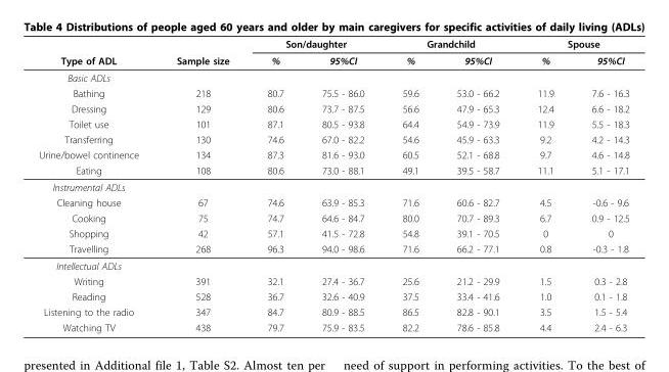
<table><thead><tr><td rowspan="2">Type of ADL</td><td rowspan="2">Sample size</td><td colspan="2">Son/daughter</td><td colspan="2">Grandchild</td><td colspan="2">Spouse</td></tr><tr><td>%</td><td>95%CI</td><td>%</td><td>95%CI</td><td>%</td><td>95%CI</td></tr></thead><tbody><tr><td colspan="8">Basic ADLs</td></tr><tr><td>Bathing</td><td>218</td><td>80.7</td><td>75.5 - 86.0</td><td>59.6</td><td>53.0 - 66.2</td><td>11.9</td><td>7.6 - 16.3</td></tr><tr><td>Dressing</td><td>129</td><td>80.6</td><td>73.7 - 87.5</td><td>56.6</td><td>47.9 - 65.3</td><td>12.4</td><td>6.6 - 18.2</td></tr><tr><td>Toilet use</td><td>101</td><td>87.1</td><td>80.5 - 93.8</td><td>64.4</td><td>54.9 - 73.9</td><td>11.9</td><td>5.5 - 18.3</td></tr><tr><td>Transferring</td><td>130</td><td>74.6</td><td>67.0 - 82.2</td><td>54.6</td><td>45.9 - 63.3</td><td>9.2</td><td>4.2 - 14.3</td></tr><tr><td>Urine/bowel continence</td><td>134</td><td>87.3</td><td>81.6 - 93.0</td><td>60.5</td><td>52.1 - 68.8</td><td>9.7</td><td>4.6 - 14.8</td></tr><tr><td>Eating</td><td>108</td><td>80.6</td><td>73.0 - 88.1</td><td>49.1</td><td>39.5 - 58.7</td><td>11.1</td><td>5.1 - 17.1</td></tr><tr><td colspan="8">Instrumental ADLs</td></tr><tr><td>Cleaning house</td><td>67</td><td>74.6</td><td>63.9 - 85.3</td><td>71.6</td><td>60.6 - 82.7</td><td>4.5</td><td>-0.6 - 9.6</td></tr><tr><td>Cooking</td><td>75</td><td>74.7</td><td>64.6 - 84.7</td><td>80.0</td><td>70.7 - 89.3</td><td>6.7</td><td>0.9 - 12.5</td></tr><tr><td>Shopping</td><td>42</td><td>57.1</td><td>41.5 - 72.8</td><td>54.8</td><td>39.1 - 70.5</td><td>0</td><td>0</td></tr><tr><td>Travelling</td><td>268</td><td>96.3</td><td>94.0 - 98.6</td><td>71.6</td><td>66.2 - 77.1</td><td>0.8</td><td>-0.3 - 1.8</td></tr><tr><td colspan="8">Intellectual ADLs</td></tr><tr><td>Writing</td><td>391</td><td>32.1</td><td>27.4 - 36.7</td><td>25.6</td><td>21.2 - 29.9</td><td>1.5</td><td>0.3 - 2.8</td></tr><tr><td>Reading</td><td>528</td><td>36.7</td><td>32.6 - 40.9</td><td>37.5</td><td>33.4 - 41.6</td><td>1.0</td><td>0.1 - 1.8</td></tr><tr><td>Listening to the radio</td><td>347</td><td>84.7</td><td>80.9 - 88.5</td><td>86.5</td><td>82.8 - 90.1</td><td>3.5</td><td>1.5 - 5.4</td></tr><tr><td>Watching TV</td><td>438</td><td>79.7</td><td>75.9 - 83.5</td><td>82.2</td><td>78.6 - 85.8</td><td>4.4</td><td>2.4 - 6.3</td></tr></tbody></table>